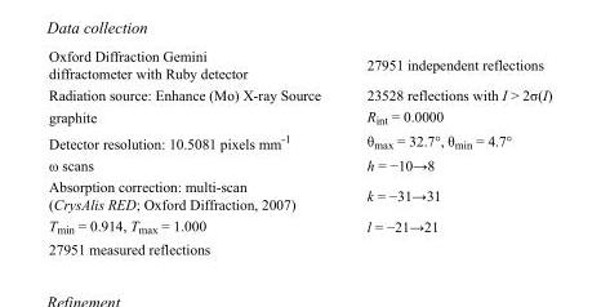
<table><tbody><tr><td>Oxford Diffraction Gemini diffractometer with Ruby detector</td><td>27951 independent reflections</td></tr><tr><td>Radiation source: Enhance (Mo) X-ray Source</td><td>23528 reflections with I &gt; 2σ(I)</td></tr><tr><td>graphite</td><td>R<sub>int</sub> = 0.0000</td></tr><tr><td>Detector resolution: 10.5081 pixels mm<sup>-1</sup></td><td>θ<sub>max</sub> = 32.7°, θ<sub>min</sub> = 4.7°</td></tr><tr><td>ω scans</td><td>h = −10→8</td></tr><tr><td>Absorption correction: multi-scan (CrysAlis RED; Oxford Diffraction, 2007)</td><td>k = −31→31</td></tr><tr><td>T<sub>min</sub> = 0.914, T<sub>max</sub> = 1.000</td><td>l = −21→21</td></tr><tr><td>27951 measured reflections</td><td></td></tr></tbody></table>